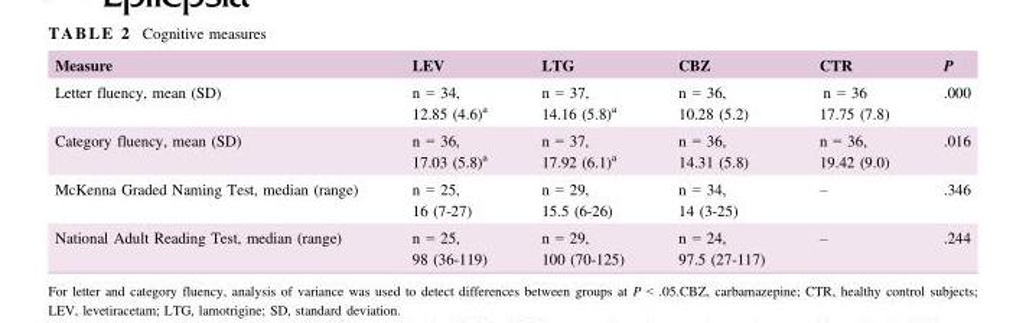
<table><thead><tr><td>Measure</td><td>LEV</td><td>LTG</td><td>CBZ</td><td>CTR</td><td>P</td></tr></thead><tbody><tr><td>Letter fluency, mean (SD)</td><td>n = 34, 12.85 (4.6)<sup>a</sup></td><td>n = 37, 14.16 (5.8)<sup>a</sup></td><td>n = 36, 10.28 (5.2)</td><td>n = 36 17.75 (7.8)</td><td>.000</td></tr><tr><td>Category fluency, mean (SD)</td><td>n = 36, 17.03 (5.8)<sup>a</sup></td><td>n = 37, 17.92 (6.1)<sup>a</sup></td><td>n = 36, 14.31 (5.8)</td><td>n = 36, 19.42 (9.0)</td><td>.016</td></tr><tr><td>McKenna Graded Naming Test, median (range)</td><td>n = 25, 16 (7-27)</td><td>n = 29, 15.5 (6-26)</td><td>n = 34, 14 (3-25)</td><td>–</td><td>.346</td></tr><tr><td>National Adult Reading Test, median (range)</td><td>n = 25, 98 (36-119)</td><td>n = 29, 100 (70-125)</td><td>n = 24, 97.5 (27-117)</td><td>–</td><td>.244</td></tr></tbody></table>